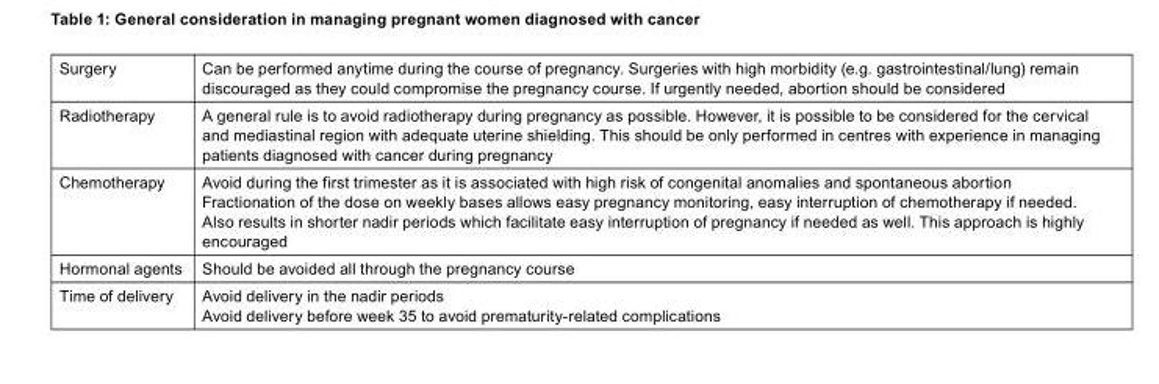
<table><tbody><tr><td>Surgery</td><td>Can be performed anytime during the course of pregnancy. Surgeries with high morbidity (e.g. gastrointestinal/lung) remain discouraged as they could compromise the pregnancy course. If urgently needed, abortion should be considered</td></tr><tr><td>Radiotherapy</td><td>A general rule is to avoid radiotherapy during pregnancy as possible. However, it is possible to be considered for the cervical and mediastinal region with adequate uterine shielding. This should be only performed in centres with experience in managing patients diagnosed with cancer during pregnancy</td></tr><tr><td>Chemotherapy</td><td>Avoid during the first trimester as it is associated with high risk of congenital anomalies and spontaneous abortion Fractionation of the dose on weekly bases allows easy pregnancy monitoring, easy interruption of chemotherapy if needed. Also results in shorter nadir periods which facilitate easy interruption of pregnancy if needed as well. This approach is highly encouraged</td></tr><tr><td>Hormonal agents</td><td>Should be avoided all through the pregnancy course</td></tr><tr><td>Time of delivery</td><td>Avoid delivery in the nadir periods Avoid delivery before week 35 to avoid prematurity-related complications</td></tr></tbody></table>